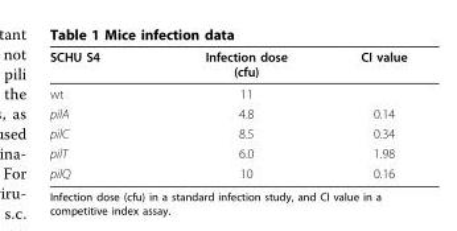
<table><thead><tr><td>SCHU S4</td><td>Infection dose (cfu)</td><td>CI value</td></tr></thead><tbody><tr><td>wt</td><td>11</td><td></td></tr><tr><td>pilA</td><td>4.8</td><td>0.14</td></tr><tr><td>pilC</td><td>8.5</td><td>0.34</td></tr><tr><td>pilT</td><td>6.0</td><td>1.98</td></tr><tr><td>pilQ</td><td>10</td><td>0.16</td></tr></tbody></table>